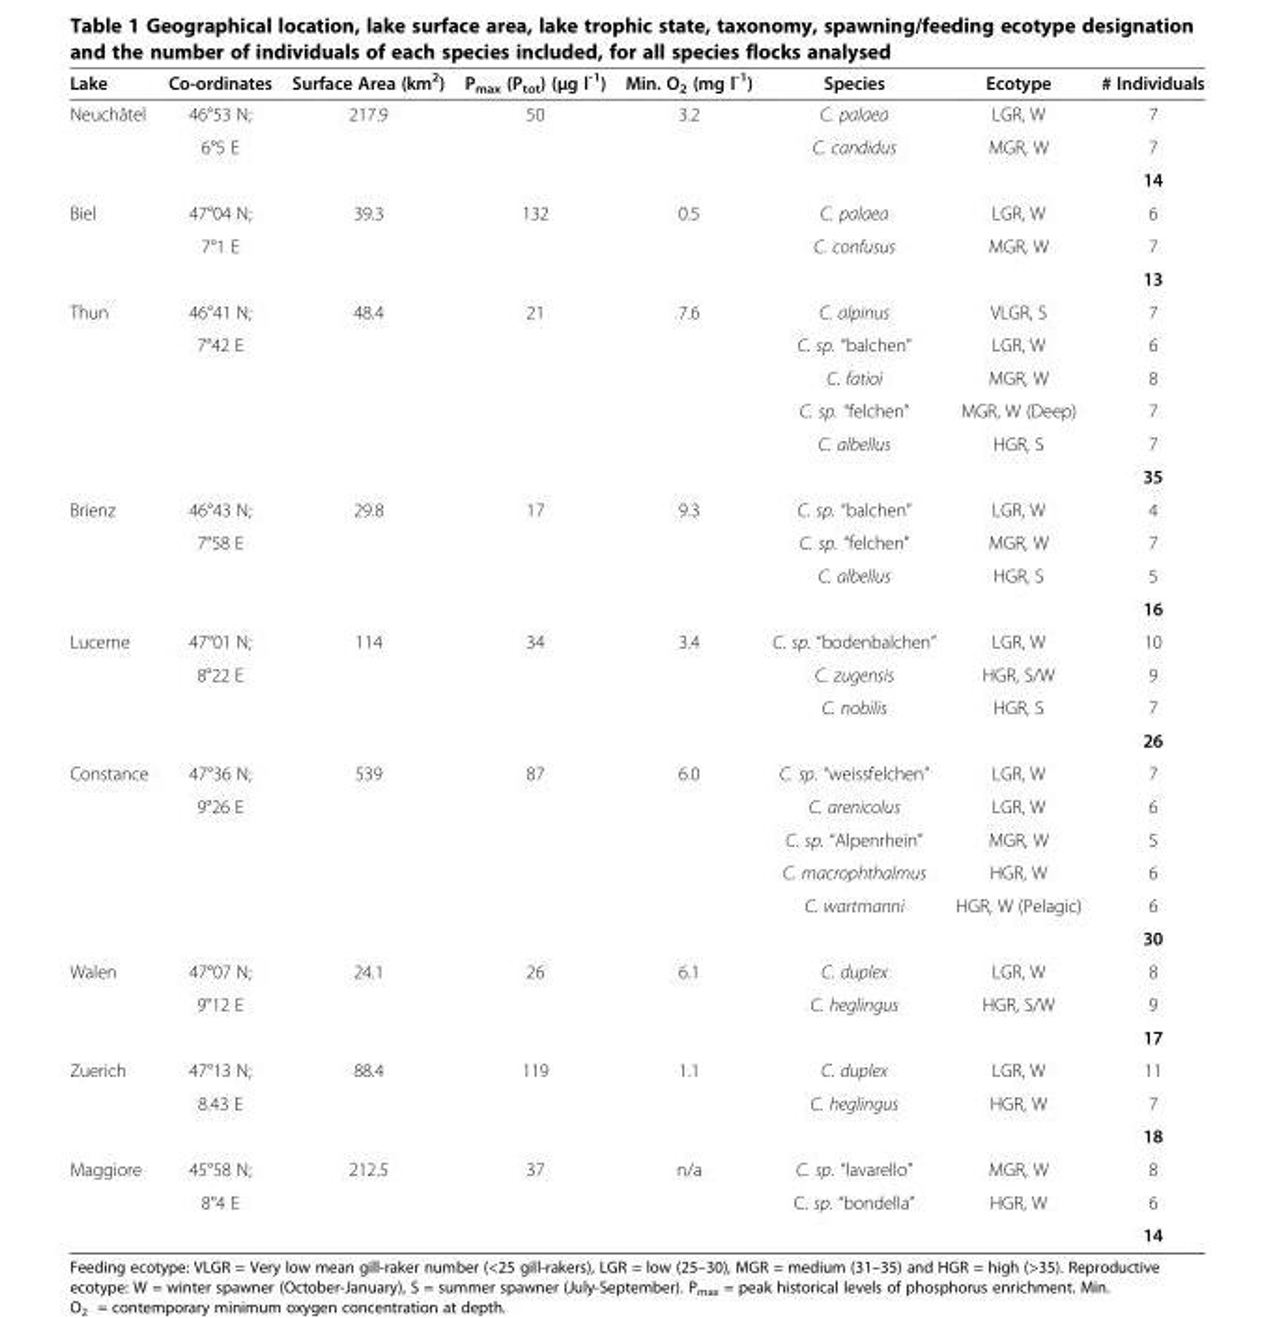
<table><thead><tr><td>Lake</td><td>Co-ordinates</td><td>Surface Area (km<sup>2</sup>)</td><td>P<sub>max</sub> (P<sub>tot</sub>) (μg l<sup>-1</sup>)</td><td>Min. O<sub>2</sub> (mg l<sup>-1</sup>)</td><td>Species</td><td>Ecotype</td><td># Individuals</td></tr></thead><tbody><tr><td rowspan="3">Neuchâtel</td><td>46°53 N;</td><td>217.9</td><td>50</td><td>3.2</td><td>C. palaea</td><td>LGR, W</td><td>7</td></tr><tr><td>6°5 E</td><td></td><td></td><td></td><td>C. candidus</td><td>MGR, W</td><td>7</td></tr><tr><td></td><td></td><td></td><td></td><td></td><td></td><td>14</td></tr><tr><td rowspan="3">Biel</td><td>47°04 N;</td><td>39.3</td><td>132</td><td>0.5</td><td>C. palaea</td><td>LGR, W</td><td>6</td></tr><tr><td>7°1 E</td><td></td><td></td><td></td><td>C. confusus</td><td>MGR, W</td><td>7</td></tr><tr><td></td><td></td><td></td><td></td><td></td><td></td><td>13</td></tr><tr><td rowspan="6">Thun</td><td>46°41 N;</td><td>48.4</td><td>21</td><td>7.6</td><td>C. alpinus</td><td>VLGR, S</td><td>7</td></tr><tr><td>7°42 E</td><td></td><td></td><td></td><td>C. sp. “balchen”</td><td>LGR, W</td><td>6</td></tr><tr><td></td><td></td><td></td><td></td><td>C. fatioi</td><td>MGR, W</td><td>8</td></tr><tr><td></td><td></td><td></td><td></td><td>C. sp. “felchen”</td><td>MGR, W (Deep)</td><td>7</td></tr><tr><td></td><td></td><td></td><td></td><td>C. albellus</td><td>HGR, S</td><td>7</td></tr><tr><td></td><td></td><td></td><td></td><td></td><td></td><td>35</td></tr><tr><td rowspan="4">Brienz</td><td>46°43 N;</td><td>29.8</td><td>17</td><td>9.3</td><td>C. sp. “balchen”</td><td>LGR, W</td><td>4</td></tr><tr><td>7°58 E</td><td></td><td></td><td></td><td>C. sp. “felchen”</td><td>MGR, W</td><td>7</td></tr><tr><td></td><td></td><td></td><td></td><td>C. albellus</td><td>HGR, S</td><td>5</td></tr><tr><td></td><td></td><td></td><td></td><td></td><td></td><td>16</td></tr><tr><td rowspan="4">Lucerne</td><td>47°01 N;</td><td>114</td><td>34</td><td>3.4</td><td>C. sp. “bodenbalchen”</td><td>LGR, W</td><td>10</td></tr><tr><td>8°22 E</td><td></td><td></td><td></td><td>C. zugensis</td><td>HGR, S/W</td><td>9</td></tr><tr><td></td><td></td><td></td><td></td><td>C. nobilis</td><td>HGR, S</td><td>7</td></tr><tr><td></td><td></td><td></td><td></td><td></td><td></td><td>26</td></tr><tr><td rowspan="6">Constance</td><td>47°36 N;</td><td>539</td><td>87</td><td>6.0</td><td>C. sp. “weissfelchen”</td><td>LGR, W</td><td>7</td></tr><tr><td>9°26 E</td><td></td><td></td><td></td><td>C. arenicolus</td><td>LGR, W</td><td>6</td></tr><tr><td></td><td></td><td></td><td></td><td>C. sp. “Alpenrhein”</td><td>MGR, W</td><td>5</td></tr><tr><td></td><td></td><td></td><td></td><td>C. macrophthalmus</td><td>HGR, W</td><td>6</td></tr><tr><td></td><td></td><td></td><td></td><td>C. wartmanni</td><td>HGR, W (Pelagic)</td><td>6</td></tr><tr><td></td><td></td><td></td><td></td><td></td><td></td><td>30</td></tr><tr><td rowspan="3">Walen</td><td>47°07 N;</td><td>24.1</td><td>26</td><td>6.1</td><td>C. duplex</td><td>LGR, W</td><td>8</td></tr><tr><td>9°12 E</td><td></td><td></td><td></td><td>C. heglingus</td><td>HGR, S/W</td><td>9</td></tr><tr><td></td><td></td><td></td><td></td><td></td><td></td><td>17</td></tr><tr><td rowspan="3">Zuerich</td><td>47°13 N;</td><td>88.4</td><td>119</td><td>1.1</td><td>C. duplex</td><td>LGR, W</td><td>11</td></tr><tr><td>8.43 E</td><td></td><td></td><td></td><td>C. heglingus</td><td>HGR, W</td><td>7</td></tr><tr><td></td><td></td><td></td><td></td><td></td><td></td><td>18</td></tr><tr><td rowspan="3">Maggiore</td><td>45°58 N;</td><td>212.5</td><td>37</td><td>n/a</td><td>C. sp. “lavarello”</td><td>MGR, W</td><td>8</td></tr><tr><td>8°4 E</td><td></td><td></td><td></td><td>C. sp. “bondella”</td><td>HGR, W</td><td>6</td></tr><tr><td></td><td></td><td></td><td></td><td></td><td></td><td>14</td></tr></tbody></table>